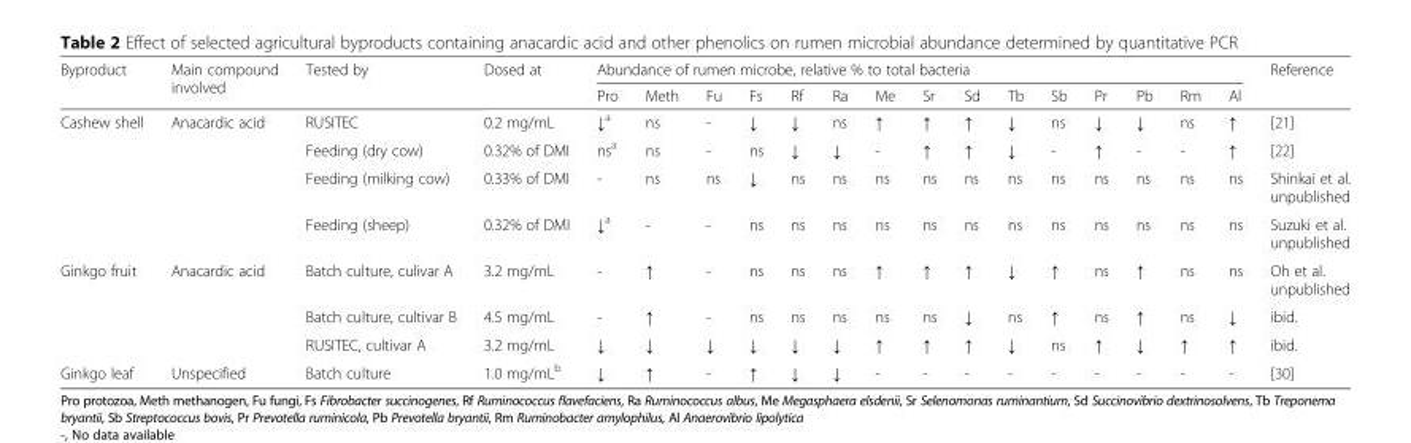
<table><thead><tr><td rowspan="2">Byproduct</td><td rowspan="2">Main compound involved</td><td rowspan="2">Tested by</td><td rowspan="2">Dosed at</td><td colspan="15">Abundance of rumen microbe, relative % to total bacteria</td><td rowspan="2">Reference</td></tr><tr><td>Pro</td><td>Meth</td><td>Fu</td><td>Fs</td><td>Rf</td><td>Ra</td><td>Me</td><td>Sr</td><td>Sd</td><td>Tb</td><td>Sb</td><td>Pr</td><td>Pb</td><td>Rm</td><td>Al</td></tr></thead><tbody><tr><td rowspan="4">Cashew shell</td><td rowspan="4">Anacardic acid</td><td>RUSITEC</td><td>0.2 mg/mL</td><td>↓<sup>a</sup></td><td>ns</td><td>-</td><td>↓</td><td>↓</td><td>ns</td><td>↑</td><td>↑</td><td>↑</td><td>↓</td><td>ns</td><td>↓</td><td>↓</td><td>ns</td><td>↑</td><td>[21]</td></tr><tr><td>Feeding (dry cow)</td><td>0.32% of DMI</td><td>ns<sup>a</sup></td><td>ns</td><td>-</td><td>ns</td><td>↓</td><td>↓</td><td>-</td><td>↑</td><td>↑</td><td>↓</td><td>-</td><td>↑</td><td>-</td><td>-</td><td>↑</td><td>[22]</td></tr><tr><td>Feeding (milking cow)</td><td>0.33% of DMI</td><td>-</td><td>ns</td><td>ns</td><td>↓</td><td>ns</td><td>ns</td><td>ns</td><td>ns</td><td>ns</td><td>ns</td><td>ns</td><td>ns</td><td>ns</td><td>ns</td><td>ns</td><td>Shinkai et al. unpublished</td></tr><tr><td>Feeding (sheep)</td><td>0.32% of DMI</td><td>↓<sup>a</sup></td><td>-</td><td>-</td><td>ns</td><td>ns</td><td>ns</td><td>ns</td><td>ns</td><td>ns</td><td>ns</td><td>ns</td><td>ns</td><td>ns</td><td>ns</td><td>ns</td><td>Suzuki et al. unpublished</td></tr><tr><td rowspan="3">Ginkgo fruit</td><td rowspan="3">Anacardic acid</td><td>Batch culture, culivar A</td><td>3.2 mg/mL</td><td>-</td><td>↑</td><td>-</td><td>ns</td><td>ns</td><td>ns</td><td>↑</td><td>↑</td><td>↑</td><td>↓</td><td>↑</td><td>ns</td><td>↑</td><td>ns</td><td>ns</td><td>Oh et al. unpublished</td></tr><tr><td>Batch culture, cultivar B</td><td>4.5 mg/mL</td><td>-</td><td>↑</td><td>-</td><td>ns</td><td>ns</td><td>ns</td><td>ns</td><td>ns</td><td>↓</td><td>ns</td><td>↑</td><td>ns</td><td>↑</td><td>ns</td><td>↓</td><td>ibid.</td></tr><tr><td>RUSITEC, cultivar A</td><td>3.2 mg/mL</td><td>↓</td><td>↓</td><td>↓</td><td>↓</td><td>↓</td><td>↓</td><td>↑</td><td>↑</td><td>↑</td><td>↓</td><td>ns</td><td>↑</td><td>↓</td><td>↑</td><td>↑</td><td>ibid.</td></tr><tr><td>Ginkgo leaf</td><td>Unspecified</td><td>Batch culture</td><td>1.0 mg/mL<sup>b</sup></td><td>↓</td><td>↑</td><td>-</td><td>↑</td><td>↓</td><td>↓</td><td>-</td><td>-</td><td>-</td><td>-</td><td>-</td><td>-</td><td>-</td><td>-</td><td>-</td><td>[30]</td></tr></tbody></table>